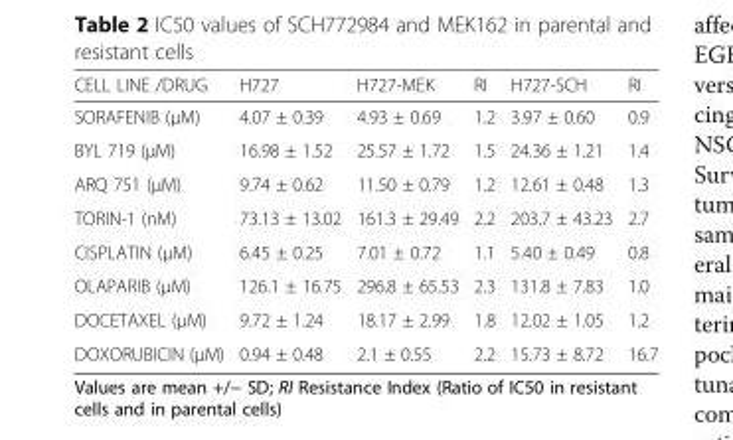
<table><thead><tr><td>CELL LINE /DRUG</td><td>H727</td><td>H727-MEK</td><td>RI</td><td>H727-SCH</td><td>RI</td></tr></thead><tbody><tr><td>SORAFENIB (μM)</td><td>4.07 ± 0.39</td><td>4.93 ± 0.69</td><td>1.2</td><td>3.97 ± 0.60</td><td>0.9</td></tr><tr><td>BYL 719 (μM)</td><td>16.98 ± 1.52</td><td>25.57 ± 1.72</td><td>1.5</td><td>24.36 ± 1.21</td><td>1.4</td></tr><tr><td>ARQ 751 (μM)</td><td>9.74 ± 0.62</td><td>11.50 ± 0.79</td><td>1.2</td><td>12.61 ± 0.48</td><td>1.3</td></tr><tr><td>TORIN-1 (nM)</td><td>73.13 ± 13.02</td><td>161.3 ± 29.49</td><td>2.2</td><td>203.7 ± 43.23</td><td>2.7</td></tr><tr><td>CISPLATIN (μM)</td><td>6.45 ± 0.25</td><td>7.01 ± 0.72</td><td>1.1</td><td>5.40 ± 0.49</td><td>0.8</td></tr><tr><td>OLAPARIB (μM)</td><td>126.1 ± 16.75</td><td>296.8 ± 65.53</td><td>2.3</td><td>131.8 ± 7.83</td><td>1.0</td></tr><tr><td>DOCETAXEL (μM)</td><td>9.72 ± 1.24</td><td>18.17 ± 2.99</td><td>1.8</td><td>12.02 ± 1.05</td><td>1.2</td></tr><tr><td>DOXORUBICIN (μM)</td><td>0.94 ± 0.48</td><td>2.1 ± 0.55</td><td>2.2</td><td>15.73 ± 8.72</td><td>16.7</td></tr></tbody></table>